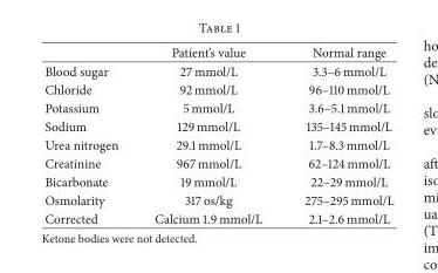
<table><thead><tr><td></td><td>Patient’s value</td><td>Normal range</td></tr></thead><tbody><tr><td>Blood sugar</td><td>27 mmol/L</td><td>3.3–6 mmol/L</td></tr><tr><td>Chloride</td><td>92 mmol/L</td><td>96–110 mmol/L</td></tr><tr><td>Potassium</td><td>5 mmol/L</td><td>3.6–5.1 mmol/L</td></tr><tr><td>Sodium</td><td>129 mmol/L</td><td>135–145 mmol/L</td></tr><tr><td>Urea nitrogen</td><td>29.1 mmol/L</td><td>1.7–8.3 mmol/L</td></tr><tr><td>Creatinine</td><td>967 mmol/L</td><td>62–124 mmol/L</td></tr><tr><td>Bicarbonate</td><td>19 mmol/L</td><td>22–29 mmol/L</td></tr><tr><td>Osmolarity</td><td>317 os/kg</td><td>275–295 mmol/L</td></tr><tr><td>Corrected</td><td>Calcium 1.9 mmol/L</td><td>2.1–2.6 mmol/L</td></tr></tbody></table>